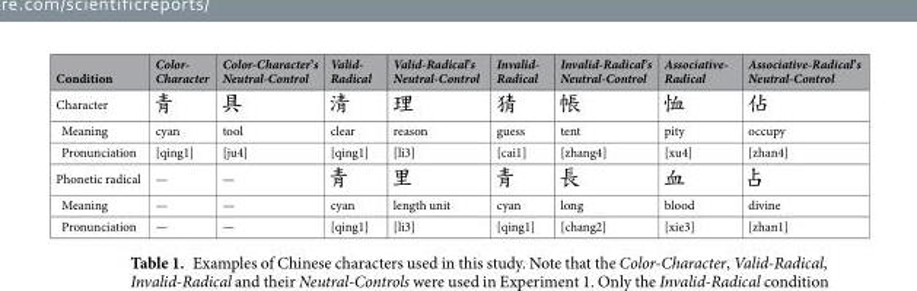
<table><thead><tr><td>Condition</td><td>Color- Character</td><td>Color-Character’s Neutral-Control</td><td>Valid- Radical</td><td>Valid-Radical’s Neutral-Control</td><td>Invalid- Radical</td><td>Invalid-Radical’s Neutral-Control</td><td>Associative- Radical</td><td>Associative-Radical’s Neutral-Control</td></tr></thead><tbody><tr><td colspan="9">Character</td></tr><tr><td>Meaning</td><td>cyan</td><td>tool</td><td>clear</td><td>reason</td><td>guess</td><td>tent</td><td>pity</td><td>occupy</td></tr><tr><td>Pronunciation</td><td>[qing1]</td><td>[ju4]</td><td>[qing1]</td><td>[li3]</td><td>[cai1]</td><td>[zhang4]</td><td>[xu4]</td><td>[zhan4]</td></tr><tr><td>Phonetic radical</td><td>—</td><td>—</td><td></td><td></td><td></td><td></td><td></td><td></td></tr><tr><td>Meaning</td><td>—</td><td>—</td><td>cyan</td><td>length unit</td><td>cyan</td><td>long</td><td>blood</td><td>divine</td></tr><tr><td>Pronunciation</td><td>—</td><td>—</td><td>[qing1]</td><td>[li3]</td><td>[qing1]</td><td>[chang2]</td><td>[xie3]</td><td>[zhan1]</td></tr></tbody></table>